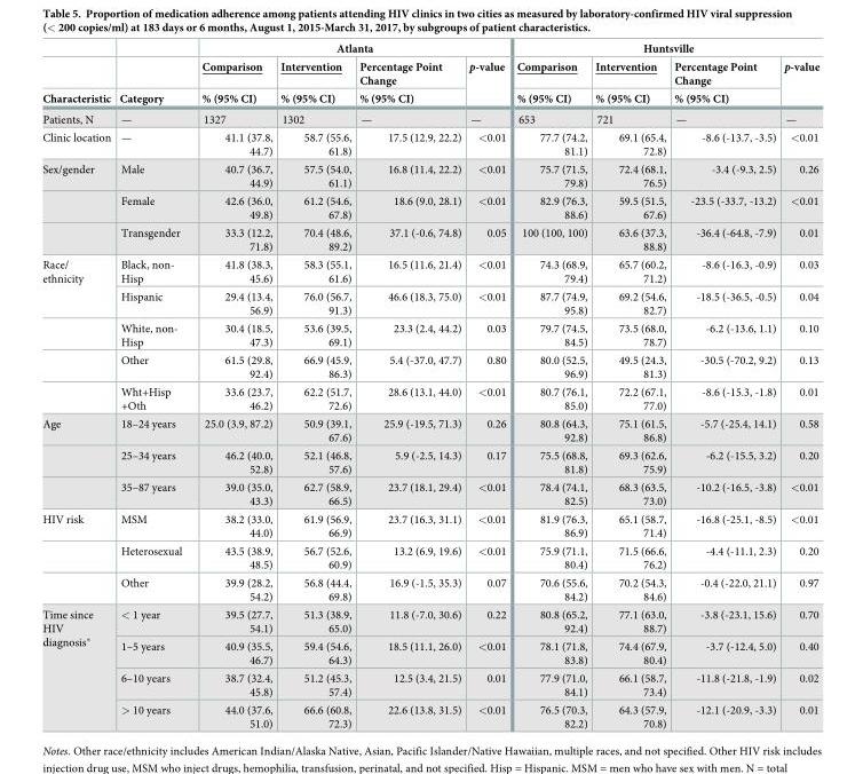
<table><thead><tr><td rowspan="3">Characteristic</td><td rowspan="3">Category</td><td colspan="4">Atlanta</td><td colspan="4">Huntsville</td></tr><tr><td rowspan="2">Comparison % (95% CI)</td><td rowspan="2">Intervention % (95% CI)</td><td rowspan="2">Percentage Point Change % (95% CI)</td><td rowspan="2">p-value</td><td rowspan="2">Comparison % (95% CI)</td><td rowspan="2">Intervention % (95% CI)</td><td rowspan="2">Percentage Point Change % (95% CI)</td><td rowspan="2">p-value</td></tr><tr></tr></thead><tbody><tr><td>Patients, N</td><td>—</td><td>1327</td><td>1302</td><td>—</td><td>—</td><td>653</td><td>721</td><td>—</td><td>—</td></tr><tr><td>Clinic location</td><td>—</td><td>41.1 (37.8, 44.7)</td><td>58.7 (55.6, 61.8)</td><td>17.5 (12.9, 22.2)</td><td>&lt;0.01</td><td>77.7 (74.2, 81.1)</td><td>69.1 (65.4, 72.8)</td><td>-8.6 (-13.7, -3.5)</td><td>&lt;0.01</td></tr><tr><td rowspan="3">Sex/gender</td><td>Male</td><td>40.7 (36.7, 44.9)</td><td>57.5 (54.0, 61.1)</td><td>16.8 (11.4, 22.2)</td><td>&lt;0.01</td><td>75.7 (71.5, 79.8)</td><td>72.4 (68.1, 76.5)</td><td>-3.4 (-9.3, 2.5)</td><td>0.26</td></tr><tr><td>Female</td><td>42.6 (36.0, 49.8)</td><td>61.2 (54.6, 67.8)</td><td>18.6 (9.0, 28.1)</td><td>&lt;0.01</td><td>82.9 (76.3, 88.6)</td><td>59.5 (51.5, 67.6)</td><td>-23.5 (-33.7, -13.2)</td><td>&lt;0.01</td></tr><tr><td>Transgender</td><td>33.3 (12.2, 71.8)</td><td>70.4 (48.6, 89.2)</td><td>37.1 (-0.6, 74.8)</td><td>0.05</td><td>100 (100, 100)</td><td>63.6 (37.3, 88.8)</td><td>-36.4 (-64.8, -7.9)</td><td>0.01</td></tr><tr><td rowspan="5">Race/ ethnicity</td><td>Black, non- Hisp</td><td>41.8 (38.3, 45.6)</td><td>58.3 (55.1, 61.6)</td><td>16.5 (11.6, 21.4)</td><td>&lt;0.01</td><td>74.3 (68.9, 79.4)</td><td>65.7 (60.2, 71.2)</td><td>-8.6 (-16.3, -0.9)</td><td>0.03</td></tr><tr><td>Hispanic</td><td>29.4 (13.4, 56.9)</td><td>76.0 (56.7, 91.3)</td><td>46.6 (18.3, 75.0)</td><td>&lt;0.01</td><td>87.7 (74.9, 95.8)</td><td>69.2 (54.6, 82.7)</td><td>-18.5 (-36.5, -0.5)</td><td>0.04</td></tr><tr><td>White, non- Hisp</td><td>30.4 (18.5, 47.3)</td><td>53.6 (39.5, 69.1)</td><td>23.3 (2.4, 44.2)</td><td>0.03</td><td>79.7 (74.5, 84.5)</td><td>73.5 (68.0, 78.7)</td><td>-6.2 (-13.6, 1.1)</td><td>0.10</td></tr><tr><td>Other</td><td>61.5 (29.8, 92.4)</td><td>66.9 (45.9, 86.3)</td><td>5.4 (-37.0, 47.7)</td><td>0.80</td><td>80.0 (52.5, 96.9)</td><td>49.5 (24.3, 81.3)</td><td>-30.5 (-70.2, 9.2)</td><td>0.13</td></tr><tr><td>Wht+Hisp +Oth</td><td>33.6 (23.7, 46.2)</td><td>62.2 (51.7, 72.6)</td><td>28.6 (13.1, 44.0)</td><td>&lt;0.01</td><td>80.7 (76.1, 85.0)</td><td>72.2 (67.1, 77.0)</td><td>-8.6 (-15.3, -1.8)</td><td>0.01</td></tr><tr><td rowspan="3">Age</td><td>18–24 years</td><td>25.0 (3.9, 87.2)</td><td>50.9 (39.1, 67.6)</td><td>25.9 (-19.5, 71.3)</td><td>0.26</td><td>80.8 (64.3, 92.8)</td><td>75.1 (61.5, 86.8)</td><td>-5.7 (-25.4, 14.1)</td><td>0.58</td></tr><tr><td>25–34 years</td><td>46.2 (40.0, 52.8)</td><td>52.1 (46.8, 57.6)</td><td>5.9 (-2.5, 14.3)</td><td>0.17</td><td>75.5 (68.8, 81.8)</td><td>69.3 (62.6, 75.9)</td><td>-6.2 (-15.5, 3.2)</td><td>0.20</td></tr><tr><td>35–87 years</td><td>39.0 (35.0, 43.3)</td><td>62.7 (58.9, 66.5)</td><td>23.7 (18.1, 29.4)</td><td>&lt;0.01</td><td>78.4 (74.1, 82.5)</td><td>68.3 (63.5, 73.0)</td><td>-10.2 (-16.5, -3.8)</td><td>&lt;0.01</td></tr><tr><td rowspan="3">HIV risk</td><td>MSM</td><td>38.2 (33.0, 44.0)</td><td>61.9 (56.9, 66.9)</td><td>23.7 (16.3, 31.1)</td><td>&lt;0.01</td><td>81.9 (76.3, 86.9)</td><td>65.1 (58.7, 71.4)</td><td>-16.8 (-25.1, -8.5)</td><td>&lt;0.01</td></tr><tr><td>Heterosexual</td><td>43.5 (38.9, 48.5)</td><td>56.7 (52.6, 60.9)</td><td>13.2 (6.9, 19.6)</td><td>&lt;0.01</td><td>75.9 (71.1, 80.4)</td><td>71.5 (66.6, 76.2)</td><td>-4.4 (-11.1, 2.3)</td><td>0.20</td></tr><tr><td>Other</td><td>39.9 (28.2, 54.2)</td><td>56.8 (44.4, 69.8)</td><td>16.9 (-1.5, 35.3)</td><td>0.07</td><td>70.6 (55.6, 84.2)</td><td>70.2 (54.3, 84.6)</td><td>-0.4 (-22.0, 21.1)</td><td>0.97</td></tr><tr><td rowspan="4">Time since HIV diagnosis*</td><td>&lt; 1 year</td><td>39.5 (27.7, 54.1)</td><td>51.3 (38.9, 65.0)</td><td>11.8 (-7.0, 30.6)</td><td>0.22</td><td>80.8 (65.2, 92.4)</td><td>77.1 (63.0, 88.7)</td><td>-3.8 (-23.1, 15.6)</td><td>0.70</td></tr><tr><td>1–5 years</td><td>40.9 (35.5, 46.7)</td><td>59.4 (54.6, 64.3)</td><td>18.5 (11.1, 26.0)</td><td>&lt;0.01</td><td>78.1 (71.8, 83.8)</td><td>74.4 (67.9, 80.4)</td><td>-3.7 (-12.4, 5.0)</td><td>0.40</td></tr><tr><td>6–10 years</td><td>38.7 (32.4, 45.8)</td><td>51.2 (45.3, 57.4)</td><td>12.5 (3.4, 21.5)</td><td>0.01</td><td>77.9 (71.0, 84.1)</td><td>66.1 (58.7, 73.4)</td><td>-11.8 (-21.8, -1.9)</td><td>0.02</td></tr><tr><td>&gt; 10 years</td><td>44.0 (37.6, 51.0)</td><td>66.6 (60.8, 72.3)</td><td>22.6 (13.8, 31.5)</td><td>&lt;0.01</td><td>76.5 (70.3, 82.2)</td><td>64.3 (57.9, 70.8)</td><td>-12.1 (-20.9, -3.3)</td><td>0.01</td></tr></tbody></table>